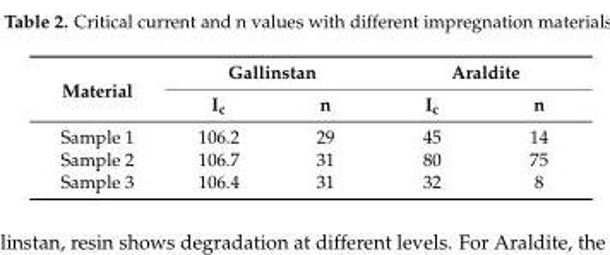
<table><thead><tr><td rowspan="2">Material</td><td colspan="2">Gallinstan</td><td colspan="2">Araldite</td></tr><tr><td>I<sub>c</sub></td><td>n</td><td>I<sub>c</sub></td><td>n</td></tr></thead><tbody><tr><td>Sample 1</td><td>106.2</td><td>29</td><td>45</td><td>14</td></tr><tr><td>Sample 2</td><td>106.7</td><td>31</td><td>80</td><td>75</td></tr><tr><td>Sample 3</td><td>106.4</td><td>31</td><td>32</td><td>8</td></tr></tbody></table>